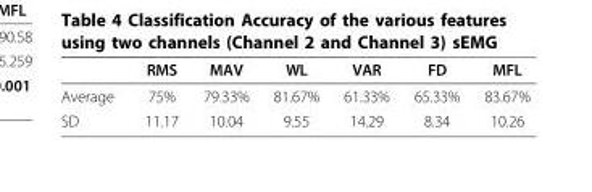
<table><thead><tr><td></td><td>RMS</td><td>MAV</td><td>WL</td><td>VAR</td><td>FD</td><td>MFL</td></tr></thead><tbody><tr><td>Average</td><td>75%</td><td>79.33%</td><td>81.67%</td><td>61.33%</td><td>65.33%</td><td>83.67%</td></tr><tr><td>SD</td><td>11.17</td><td>10.04</td><td>9.55</td><td>14.29</td><td>8.34</td><td>10.26</td></tr></tbody></table>